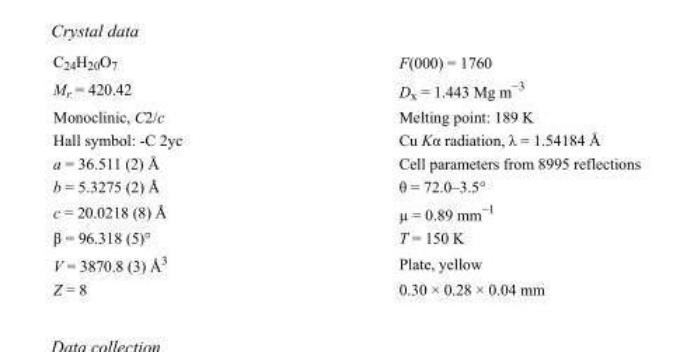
<table><tbody><tr><td>C<sub>24</sub>H<sub>20</sub>O<sub>7</sub></td><td>F(000) = 1760</td></tr><tr><td>M<sub>r</sub> = 420.42</td><td>D<sub>x</sub> = 1.443 Mg m<sup>−3</sup></td></tr><tr><td>Monoclinic, C2/c</td><td>Melting point: 189 K</td></tr><tr><td>Hall symbol: -C 2yc</td><td>Cu Kα radiation, λ = 1.54184 Å</td></tr><tr><td>a = 36.511 (2) Å</td><td>Cell parameters from 8995 reflections</td></tr><tr><td>b = 5.3275 (2) Å</td><td>θ = 72.0–3.5°</td></tr><tr><td>c = 20.0218 (8) Å</td><td>µ = 0.89 mm<sup>−1</sup></td></tr><tr><td>β = 96.318 (5)°</td><td>T = 150 K</td></tr><tr><td>V = 3870.8 (3) Å<sup>3</sup></td><td>Plate, yellow</td></tr><tr><td>Z = 8</td><td>0.30 × 0.28 × 0.04 mm</td></tr></tbody></table>